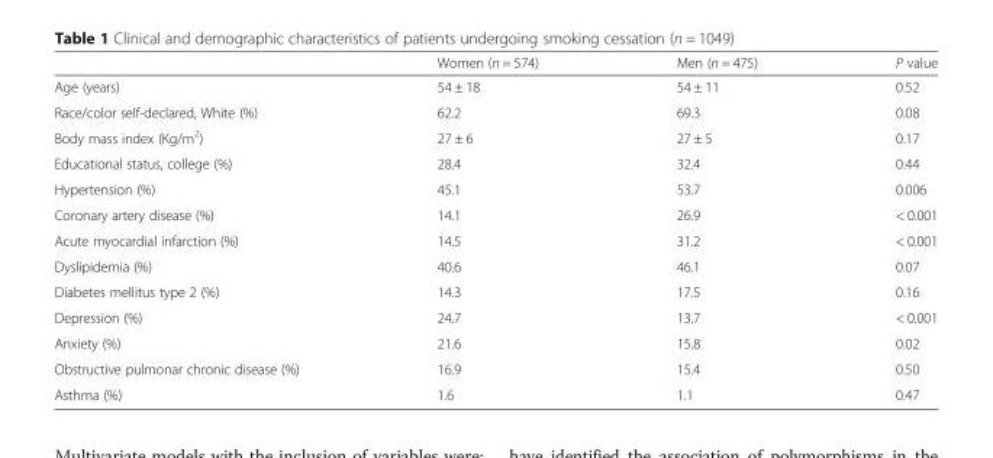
<table><thead><tr><td></td><td>Women (n = 574)</td><td>Men (n = 475)</td><td>P value</td></tr></thead><tbody><tr><td>Age (years)</td><td>54 ± 18</td><td>54 ± 11</td><td>0.52</td></tr><tr><td>Race/color self-declared, White (%)</td><td>62.2</td><td>69.3</td><td>0.08</td></tr><tr><td>Body mass index (Kg/m<sup>2</sup>)</td><td>27 ± 6</td><td>27 ± 5</td><td>0.17</td></tr><tr><td>Educational status, college (%)</td><td>28.4</td><td>32.4</td><td>0.44</td></tr><tr><td>Hypertension (%)</td><td>45.1</td><td>53.7</td><td>0.006</td></tr><tr><td>Coronary artery disease (%)</td><td>14.1</td><td>26.9</td><td>&lt; 0.001</td></tr><tr><td>Acute myocardial infarction (%)</td><td>14.5</td><td>31.2</td><td>&lt; 0.001</td></tr><tr><td>Dyslipidemia (%)</td><td>40.6</td><td>46.1</td><td>0.07</td></tr><tr><td>Diabetes mellitus type 2 (%)</td><td>14.3</td><td>17.5</td><td>0.16</td></tr><tr><td>Depression (%)</td><td>24.7</td><td>13.7</td><td>&lt; 0.001</td></tr><tr><td>Anxiety (%)</td><td>21.6</td><td>15.8</td><td>0.02</td></tr><tr><td>Obstructive pulmonar chronic disease (%)</td><td>16.9</td><td>15.4</td><td>0.50</td></tr><tr><td>Asthma (%)</td><td>1.6</td><td>1.1</td><td>0.47</td></tr></tbody></table>